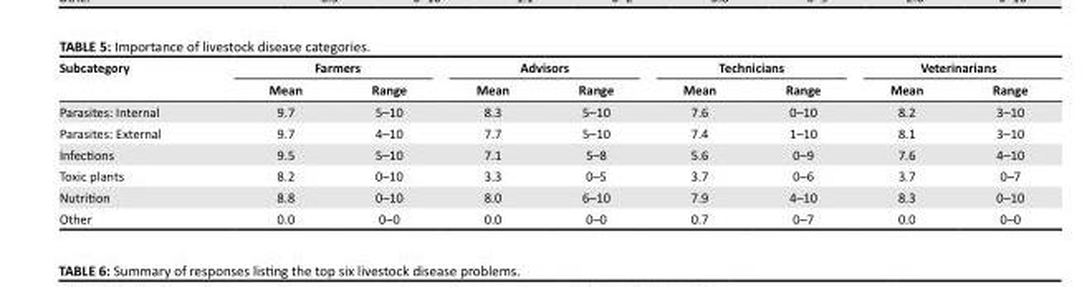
<table><thead><tr><td rowspan="2">Subcategory</td><td colspan="2">Farmers</td><td colspan="2">Advisors</td><td colspan="2">Technicians</td><td colspan="2">Veterinarians</td></tr><tr><td>Mean</td><td>Range</td><td>Mean</td><td>Range</td><td>Mean</td><td>Range</td><td>Mean</td><td>Range</td></tr></thead><tbody><tr><td>Parasites: Internal</td><td>9.7</td><td>5–10</td><td>8.3</td><td>5–10</td><td>7.6</td><td>0–10</td><td>8.2</td><td>3–10</td></tr><tr><td>Parasites: External</td><td>9.7</td><td>4–10</td><td>7.7</td><td>5–10</td><td>7.4</td><td>1–10</td><td>8.1</td><td>3–10</td></tr><tr><td>Infections</td><td>9.5</td><td>5–10</td><td>7.1</td><td>5–8</td><td>5.6</td><td>0–9</td><td>7.6</td><td>4–10</td></tr><tr><td>Toxic plants</td><td>8.2</td><td>0–10</td><td>3.3</td><td>0–5</td><td>3.7</td><td>0–6</td><td>3.7</td><td>0–7</td></tr><tr><td>Nutrition</td><td>8.8</td><td>0–10</td><td>8.0</td><td>6–10</td><td>7.9</td><td>4–10</td><td>8.3</td><td>0–10</td></tr><tr><td>Other</td><td>0.0</td><td>0–0</td><td>0.0</td><td>0–0</td><td>0.7</td><td>0–7</td><td>0.0</td><td>0–0</td></tr></tbody></table>